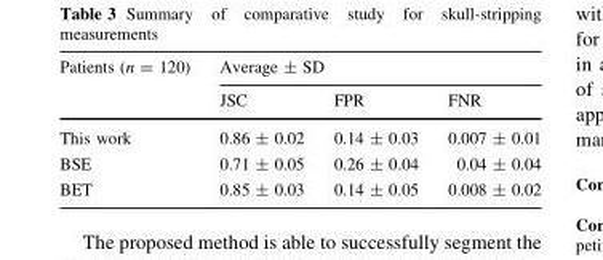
<table><thead><tr><td rowspan="2">Patients (n = 120)</td><td colspan="3">Average ± SD</td></tr><tr><td>JSC</td><td>FPR</td><td>FNR</td></tr></thead><tbody><tr><td>This work</td><td>0.86 ± 0.02</td><td>0.14 ± 0.03</td><td>0.007 ± 0.01</td></tr><tr><td>BSE</td><td>0.71 ± 0.05</td><td>0.26 ± 0.04</td><td>0.04 ± 0.04</td></tr><tr><td>BET</td><td>0.85 ± 0.03</td><td>0.14 ± 0.05</td><td>0.008 ± 0.02</td></tr></tbody></table>